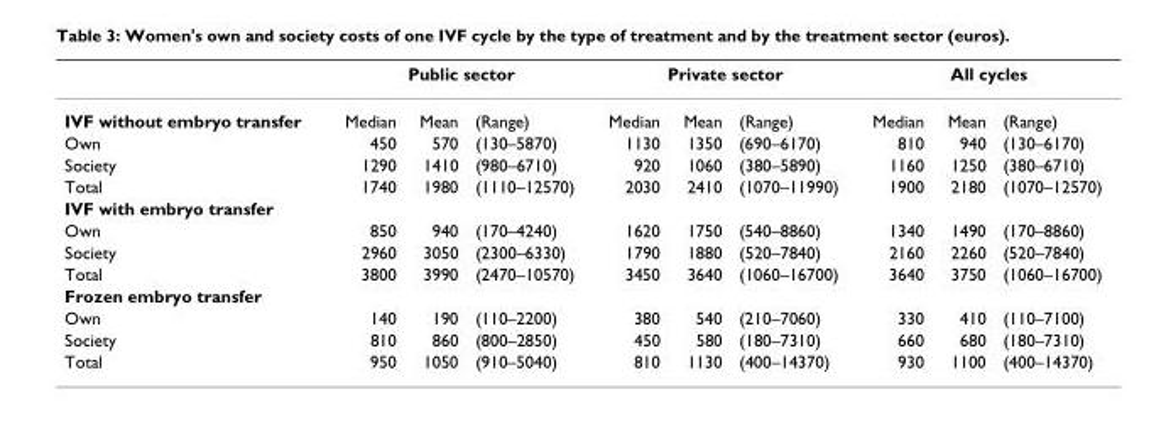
<table><thead><tr><td rowspan="2">IVF without embryo transfer</td><td colspan="3">Public sector</td><td colspan="3">Private sector</td><td colspan="3">All cycles</td></tr><tr><td>Median</td><td>Mean</td><td>(Range)</td><td>Median</td><td>Mean</td><td>(Range)</td><td>Median</td><td>Mean</td><td>(Range)</td></tr></thead><tbody><tr><td>Own</td><td>450</td><td>570</td><td>(130–5870)</td><td>1130</td><td>1350</td><td>(690–6170)</td><td>810</td><td>940</td><td>(130–6170)</td></tr><tr><td>Society</td><td>1290</td><td>1410</td><td>(980–6710)</td><td>920</td><td>1060</td><td>(380–5890)</td><td>1160</td><td>1250</td><td>(380–6710)</td></tr><tr><td>Total</td><td>1740</td><td>1980</td><td>(1110–12570)</td><td>2030</td><td>2410</td><td>(1070–11990)</td><td>1900</td><td>2180</td><td>(1070–12570)</td></tr><tr><td colspan="10">IVF with embryo transfer</td></tr><tr><td>Own</td><td>850</td><td>940</td><td>(170–4240)</td><td>1620</td><td>1750</td><td>(540–8860)</td><td>1340</td><td>1490</td><td>(170–8860)</td></tr><tr><td>Society</td><td>2960</td><td>3050</td><td>(2300–6330)</td><td>1790</td><td>1880</td><td>(520–7840)</td><td>2160</td><td>2260</td><td>(520–7840)</td></tr><tr><td>Total</td><td>3800</td><td>3990</td><td>(2470–10570)</td><td>3450</td><td>3640</td><td>(1060–16700)</td><td>3640</td><td>3750</td><td>(1060–16700)</td></tr><tr><td colspan="10">Frozen embryo transfer</td></tr><tr><td>Own</td><td>140</td><td>190</td><td>(110–2200)</td><td>380</td><td>540</td><td>(210–7060)</td><td>330</td><td>410</td><td>(110–7100)</td></tr><tr><td>Society</td><td>810</td><td>860</td><td>(800–2850)</td><td>450</td><td>580</td><td>(180–7310)</td><td>660</td><td>680</td><td>(180–7310)</td></tr><tr><td>Total</td><td>950</td><td>1050</td><td>(910–5040)</td><td>810</td><td>1130</td><td>(400–14370)</td><td>930</td><td>1100</td><td>(400–14370)</td></tr></tbody></table>